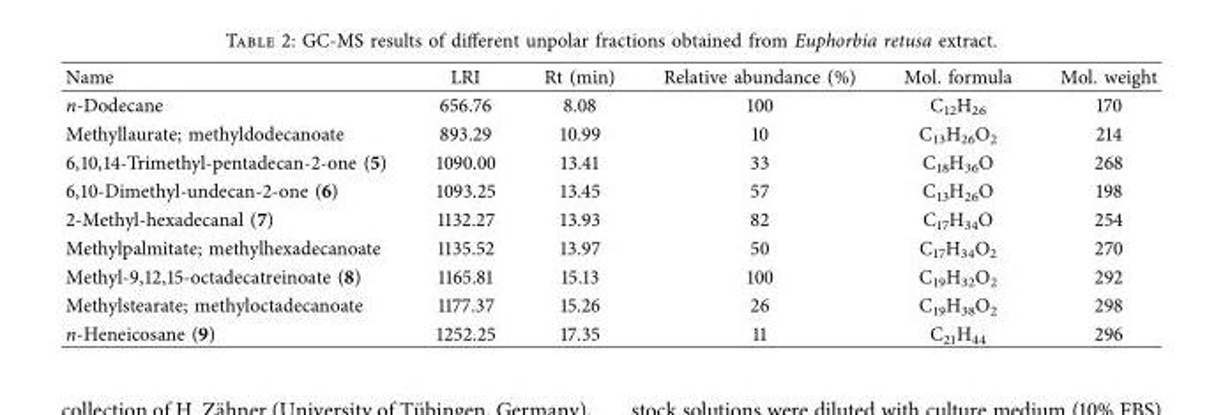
<table><thead><tr><td>Name</td><td>LRI</td><td>Rt (min)</td><td>Relative abundance (%)</td><td>Mol. formula</td><td>Mol. weight</td></tr></thead><tbody><tr><td>n-Dodecane</td><td>656.76</td><td>8.08</td><td>100</td><td>C<sub>12</sub>H<sub>26</sub></td><td>170</td></tr><tr><td>Methyllaurate; methyldodecanoate</td><td>893.29</td><td>10.99</td><td>10</td><td>C<sub>13</sub>H<sub>26</sub>O<sub>2</sub></td><td>214</td></tr><tr><td>6,10,14-Trimethyl-pentadecan-2-one (5)</td><td>1090.00</td><td>13.41</td><td>33</td><td>C<sub>18</sub>H<sub>36</sub>O</td><td>268</td></tr><tr><td>6,10-Dimethyl-undecan-2-one (6)</td><td>1093.25</td><td>13.45</td><td>57</td><td>C<sub>13</sub>H<sub>26</sub>O</td><td>198</td></tr><tr><td>2-Methyl-hexadecanal (7)</td><td>1132.27</td><td>13.93</td><td>82</td><td>C<sub>17</sub>H<sub>34</sub>O</td><td>254</td></tr><tr><td>Methylpalmitate; methylhexadecanoate</td><td>1135.52</td><td>13.97</td><td>50</td><td>C<sub>17</sub>H<sub>34</sub>O<sub>2</sub></td><td>270</td></tr><tr><td>Methyl-9,12,15-octadecatreinoate (8)</td><td>1165.81</td><td>15.13</td><td>100</td><td>C<sub>19</sub>H<sub>32</sub>O<sub>2</sub></td><td>292</td></tr><tr><td>Methylstearate; methyloctadecanoate</td><td>1177.37</td><td>15.26</td><td>26</td><td>C<sub>19</sub>H<sub>38</sub>O<sub>2</sub></td><td>298</td></tr><tr><td>n-Heneicosane (9)</td><td>1252.25</td><td>17.35</td><td>11</td><td>C<sub>21</sub>H<sub>44</sub></td><td>296</td></tr></tbody></table>